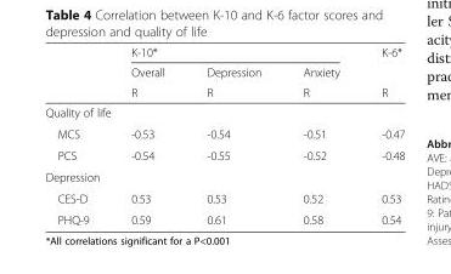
<table><thead><tr><td rowspan="3"></td><td colspan="3">K-10*</td><td rowspan="3">K-6* R</td></tr><tr><td rowspan="2">Overall R</td><td rowspan="2">Depression R</td><td rowspan="2">Anxiety R</td></tr><tr></tr></thead><tbody><tr><td colspan="5">Quality of life</td></tr><tr><td>MCS</td><td>-0.53</td><td>-0.54</td><td>-0.51</td><td>-0.47</td></tr><tr><td>PCS</td><td>-0.54</td><td>-0.55</td><td>-0.52</td><td>-0.48</td></tr><tr><td colspan="5">Depression</td></tr><tr><td>CES-D</td><td>0.53</td><td>0.53</td><td>0.52</td><td>0.53</td></tr><tr><td>PHQ-9</td><td>0.59</td><td>0.61</td><td>0.58</td><td>0.54</td></tr></tbody></table>